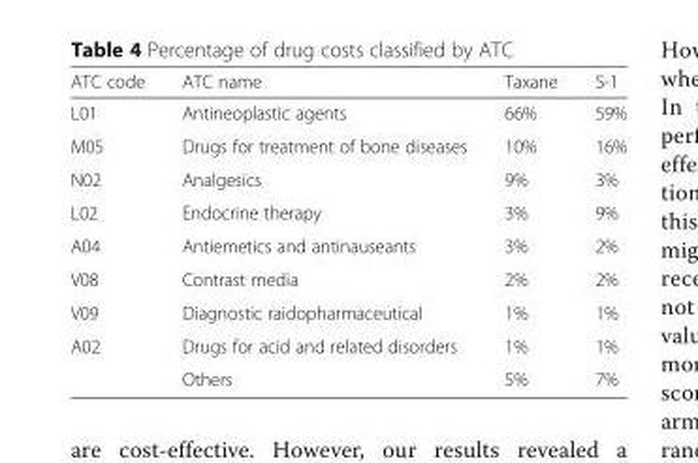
<table><thead><tr><td>ATC code</td><td>ATC name</td><td>Taxane</td><td>S-1</td></tr></thead><tbody><tr><td>L01</td><td>Antineoplastic agents</td><td>66%</td><td>59%</td></tr><tr><td>M05</td><td>Drugs for treatment of bone diseases</td><td>10%</td><td>16%</td></tr><tr><td>N02</td><td>Analgesics</td><td>9%</td><td>3%</td></tr><tr><td>L02</td><td>Endocrine therapy</td><td>3%</td><td>9%</td></tr><tr><td>A04</td><td>Antiemetics and antinauseants</td><td>3%</td><td>2%</td></tr><tr><td>V08</td><td>Contrast media</td><td>2%</td><td>2%</td></tr><tr><td>V09</td><td>Diagnostic raidopharmaceutical</td><td>1%</td><td>1%</td></tr><tr><td rowspan="2">A02</td><td>Drugs for acid and related disorders</td><td>1%</td><td>1%</td></tr><tr><td>Others</td><td>5%</td><td>7%</td></tr></tbody></table>